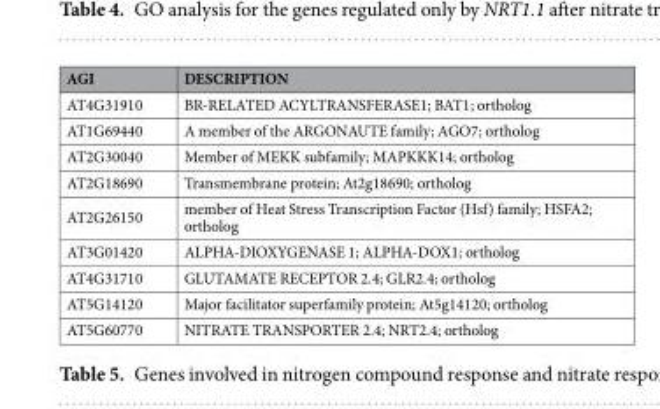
<table><thead><tr><td>AGI</td><td>DESCRIPTION</td></tr></thead><tbody><tr><td>AT4G31910</td><td>BR-RELATED ACYLTRANSFERASE1; BAT1; ortholog</td></tr><tr><td>AT1G69440</td><td>A member of the ARGONAUTE family; AGO7; ortholog</td></tr><tr><td>AT2G30040</td><td>Member of MEKK subfamily; MAPKKK14; ortholog</td></tr><tr><td>AT2G18690</td><td>Transmembrane protein; At2g18690; ortholog</td></tr><tr><td>AT2G26150</td><td>member of Heat Stress Transcription Factor (Hsf) family; HSFA2; ortholog</td></tr><tr><td>AT3G01420</td><td>ALPHA-DIOXYGENASE 1; ALPHA-DOX1; ortholog</td></tr><tr><td>AT4G31710</td><td>GLUTAMATE RECEPTOR 2.4; GLR2.4; ortholog</td></tr><tr><td>AT5G14120</td><td>Major facilitator superfamily protein; At5g14120; ortholog</td></tr><tr><td>AT5G60770</td><td>NITRATE TRANSPORTER 2.4; NRT2.4; ortholog</td></tr></tbody></table>